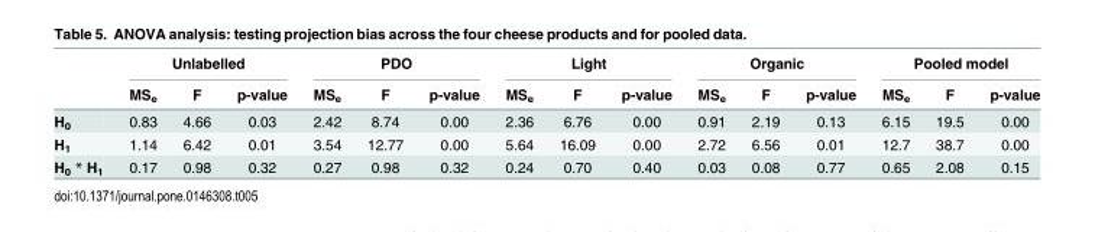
<table><thead><tr><td rowspan="2"></td><td colspan="3">Unlabelled</td><td colspan="3">PDO</td><td colspan="3">Light</td><td colspan="3">Organic</td><td colspan="3">Pooled model</td></tr><tr><td>MS<sub>e</sub></td><td>F</td><td>p-value</td><td>MS<sub>e</sub></td><td>F</td><td>p-value</td><td>MS<sub>e</sub></td><td>F</td><td>p-value</td><td>MS<sub>e</sub></td><td>F</td><td>p-value</td><td>MS<sub>e</sub></td><td>F</td><td>p-value</td></tr></thead><tbody><tr><td>H<sub>0</sub></td><td>0.83</td><td>4.66</td><td>0.03</td><td>2.42</td><td>8.74</td><td>0.00</td><td>2.36</td><td>6.76</td><td>0.00</td><td>0.91</td><td>2.19</td><td>0.13</td><td>6.15</td><td>19.5</td><td>0.00</td></tr><tr><td>H<sub>1</sub></td><td>1.14</td><td>6.42</td><td>0.01</td><td>3.54</td><td>12.77</td><td>0.00</td><td>5.64</td><td>16.09</td><td>0.00</td><td>2.72</td><td>6.56</td><td>0.01</td><td>12.7</td><td>38.7</td><td>0.00</td></tr><tr><td>H<sub>0</sub> * H<sub>1</sub></td><td>0.17</td><td>0.98</td><td>0.32</td><td>0.27</td><td>0.98</td><td>0.32</td><td>0.24</td><td>0.70</td><td>0.40</td><td>0.03</td><td>0.08</td><td>0.77</td><td>0.65</td><td>2.08</td><td>0.15</td></tr></tbody></table>